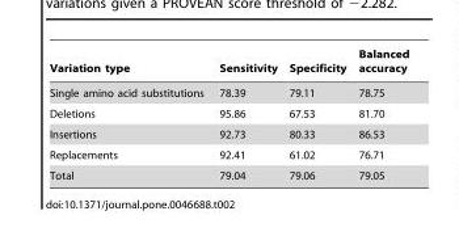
<table><thead><tr><td>Variation type</td><td>Sensitivity</td><td>Specificity</td><td>Balanced accuracy</td></tr></thead><tbody><tr><td>Single amino acid substitutions</td><td>78.39</td><td>79.11</td><td>78.75</td></tr><tr><td>Deletions</td><td>95.86</td><td>67.53</td><td>81.70</td></tr><tr><td>Insertions</td><td>92.73</td><td>80.33</td><td>86.53</td></tr><tr><td>Replacements</td><td>92.41</td><td>61.02</td><td>76.71</td></tr><tr><td>Total</td><td>79.04</td><td>79.06</td><td>79.05</td></tr></tbody></table>